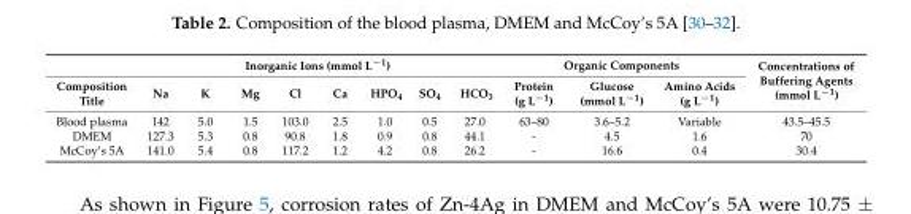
<table><thead><tr><td rowspan="2">Composition Title</td><td colspan="8">Inorganic Ions (mmol L<sup>−1</sup>)</td><td colspan="3">Organic Components</td><td rowspan="2">Concentrations of Buffering Agents (mmol L<sup>−1</sup>)</td></tr><tr><td>Na</td><td>K</td><td>Mg</td><td>Cl</td><td>Ca</td><td>HPO<sub>4</sub></td><td>SO<sub>4</sub></td><td>HCO<sub>3</sub></td><td>Protein (g L<sup>−1</sup>)</td><td>Glucose (mmol L<sup>−1</sup>)</td><td>Amino Acids (g L<sup>−1</sup>)</td></tr></thead><tbody><tr><td>Blood plasma</td><td>142</td><td>5.0</td><td>1.5</td><td>103.0</td><td>2.5</td><td>1.0</td><td>0.5</td><td>27.0</td><td>63–80</td><td>3.6–5.2</td><td>Variable</td><td>43.5–45.5</td></tr><tr><td>DMEM</td><td>127.3</td><td>5.3</td><td>0.8</td><td>90.8</td><td>1.8</td><td>0.9</td><td>0.8</td><td>44.1</td><td>-</td><td>4.5</td><td>1.6</td><td>70</td></tr><tr><td>McCoy’s 5A</td><td>141.0</td><td>5.4</td><td>0.8</td><td>117.2</td><td>1.2</td><td>4.2</td><td>0.8</td><td>26.2</td><td>-</td><td>16.6</td><td>0.4</td><td>30.4</td></tr></tbody></table>